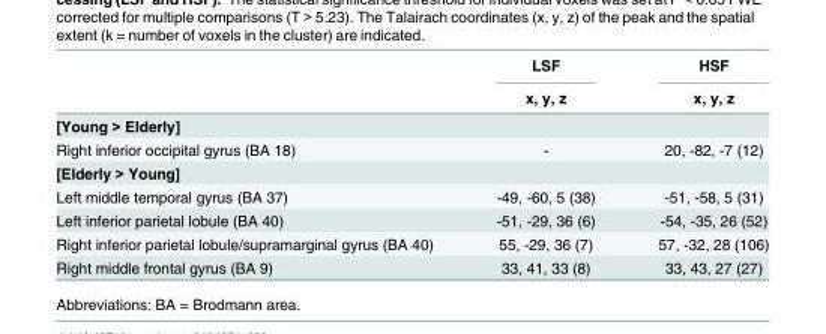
<table><thead><tr><td rowspan="2"></td><td rowspan="2">LSF x, y, z</td><td rowspan="2">HSF x, y, z</td></tr><tr></tr></thead><tbody><tr><td colspan="3">[Young &gt; Elderly]</td></tr><tr><td>Right inferior occipital gyrus (BA 18)</td><td>-</td><td>20, -82, -7 (12)</td></tr><tr><td colspan="3">[Elderly &gt; Young]</td></tr><tr><td>Left middle temporal gyrus (BA 37)</td><td>-49, -60, 5 (38)</td><td>-51, -58, 5 (31)</td></tr><tr><td>Left inferior parietal lobule (BA 40)</td><td>-51, -29, 36 (6)</td><td>-54, -35, 26 (52)</td></tr><tr><td>Right inferior parietal lobule/supramarginal gyrus (BA 40)</td><td>55, -29, 36 (7)</td><td>57, -32, 28 (106)</td></tr><tr><td>Right middle frontal gyrus (BA 9)</td><td>33, 41, 33 (8)</td><td>33, 43, 27 (27)</td></tr></tbody></table>